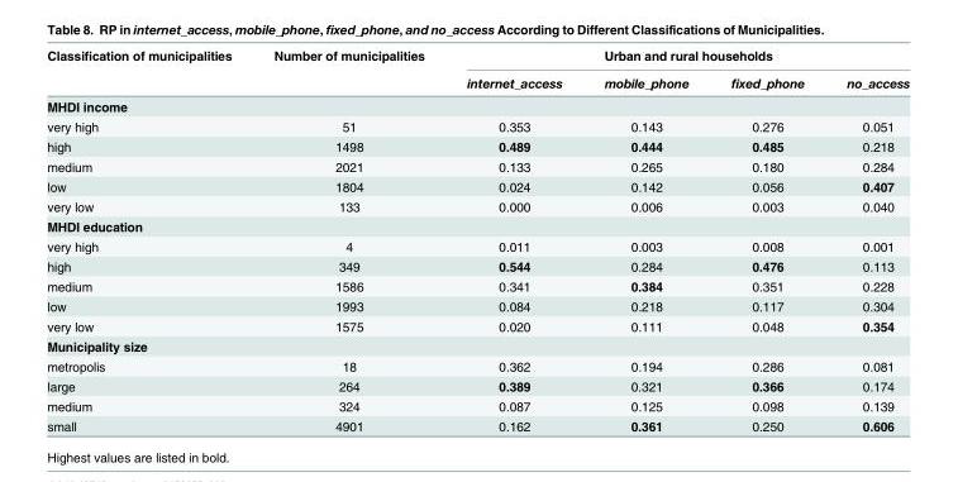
<table><thead><tr><td rowspan="2">Classification of municipalities</td><td rowspan="2">Number of municipalities</td><td colspan="4">Urban and rural households</td></tr><tr><td>internet_access</td><td>mobile_phone</td><td>fixed_phone</td><td>no_access</td></tr></thead><tbody><tr><td colspan="6">MHDI income</td></tr><tr><td>very high</td><td>51</td><td>0.353</td><td>0.143</td><td>0.276</td><td>0.051</td></tr><tr><td>high</td><td>1498</td><td>0.489</td><td>0.444</td><td>0.485</td><td>0.218</td></tr><tr><td>medium</td><td>2021</td><td>0.133</td><td>0.265</td><td>0.180</td><td>0.284</td></tr><tr><td>low</td><td>1804</td><td>0.024</td><td>0.142</td><td>0.056</td><td>0.407</td></tr><tr><td>very low</td><td>133</td><td>0.000</td><td>0.006</td><td>0.003</td><td>0.040</td></tr><tr><td colspan="6">MHDI education</td></tr><tr><td>very high</td><td>4</td><td>0.011</td><td>0.003</td><td>0.008</td><td>0.001</td></tr><tr><td>high</td><td>349</td><td>0.544</td><td>0.284</td><td>0.476</td><td>0.113</td></tr><tr><td>medium</td><td>1586</td><td>0.341</td><td>0.384</td><td>0.351</td><td>0.228</td></tr><tr><td>low</td><td>1993</td><td>0.084</td><td>0.218</td><td>0.117</td><td>0.304</td></tr><tr><td>very low</td><td>1575</td><td>0.020</td><td>0.111</td><td>0.048</td><td>0.354</td></tr><tr><td colspan="6">Municipality size</td></tr><tr><td>metropolis</td><td>18</td><td>0.362</td><td>0.194</td><td>0.286</td><td>0.081</td></tr><tr><td>large</td><td>264</td><td>0.389</td><td>0.321</td><td>0.366</td><td>0.174</td></tr><tr><td>medium</td><td>324</td><td>0.087</td><td>0.125</td><td>0.098</td><td>0.139</td></tr><tr><td>small</td><td>4901</td><td>0.162</td><td>0.361</td><td>0.250</td><td>0.606</td></tr></tbody></table>